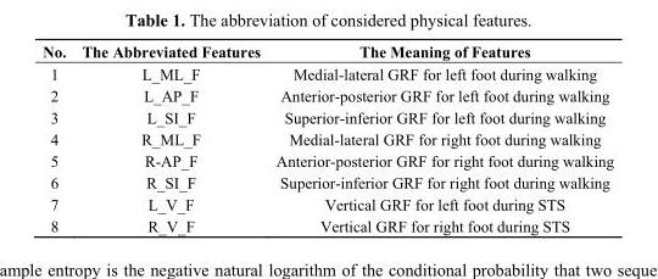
<table><thead><tr><td>No.</td><td>The Abbreviated Features</td><td>The Meaning of Features</td></tr></thead><tbody><tr><td>1</td><td>L_ML_F</td><td>Medial-lateral GRF for left foot during walking</td></tr><tr><td>2</td><td>L_AP_F</td><td>Anterior-posterior GRF for left foot during walking</td></tr><tr><td>3</td><td>L_SI_F</td><td>Superior-inferior GRF for left foot during walking</td></tr><tr><td>4</td><td>R_ML_F</td><td>Medial-lateral GRF for right foot during walking</td></tr><tr><td>5</td><td>R-AP_F</td><td>Anterior-posterior GRF for right foot during walking</td></tr><tr><td>6</td><td>R_SI_F</td><td>Superior-inferior GRF for right foot during walking</td></tr><tr><td>7</td><td>L_V_F</td><td>Vertical GRF for left foot during STS</td></tr><tr><td>8</td><td>R_V_F</td><td>Vertical GRF for right foot during STS</td></tr></tbody></table>